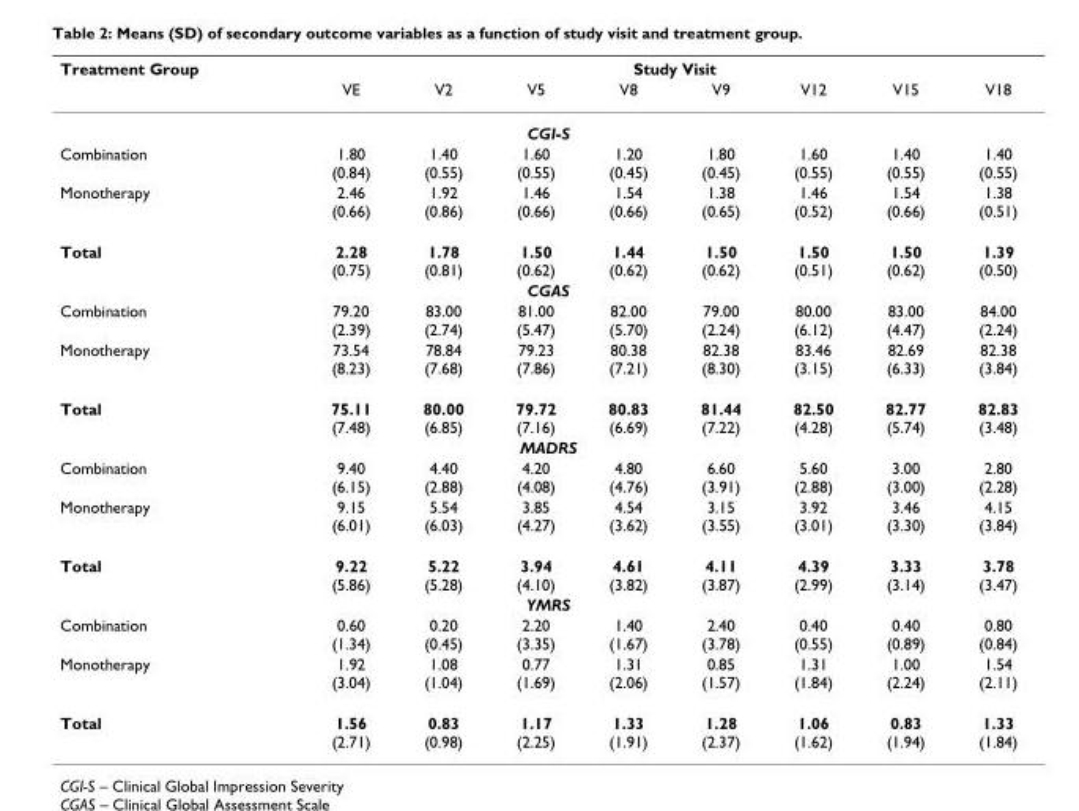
<table><thead><tr><td rowspan="2">Treatment Group</td><td colspan="8">Study Visit</td></tr><tr><td>VE</td><td>V2</td><td>V5</td><td>V8</td><td>V9</td><td>V12</td><td>V15</td><td>V18</td></tr></thead><tbody><tr><td colspan="9">CGI-S</td></tr><tr><td>Combination</td><td>1.80 (0.84)</td><td>1.40 (0.55)</td><td>1.60 (0.55)</td><td>1.20 (0.45)</td><td>1.80 (0.45)</td><td>1.60 (0.55)</td><td>1.40 (0.55)</td><td>1.40 (0.55)</td></tr><tr><td>Monotherapy</td><td>2.46 (0.66)</td><td>1.92 (0.86)</td><td>1.46 (0.66)</td><td>1.54 (0.66)</td><td>1.38 (0.65)</td><td>1.46 (0.52)</td><td>1.54 (0.66)</td><td>1.38 (0.51)</td></tr><tr><td>Total</td><td>2.28 (0.75)</td><td>1.78 (0.81)</td><td>1.50 (0.62)</td><td>1.44 (0.62)</td><td>1.50 (0.62)</td><td>1.50 (0.51)</td><td>1.50 (0.62)</td><td>1.39 (0.50)</td></tr><tr><td colspan="9">CGAS</td></tr><tr><td>Combination</td><td>79.20 (2.39)</td><td>83.00 (2.74)</td><td>81.00 (5.47)</td><td>82.00 (5.70)</td><td>79.00 (2.24)</td><td>80.00 (6.12)</td><td>83.00 (4.47)</td><td>84.00 (2.24)</td></tr><tr><td>Monotherapy</td><td>73.54 (8.23)</td><td>78.84 (7.68)</td><td>79.23 (7.86)</td><td>80.38 (7.21)</td><td>82.38 (8.30)</td><td>83.46 (3.15)</td><td>82.69 (6.33)</td><td>82.38 (3.84)</td></tr><tr><td>Total</td><td>75.11 (7.48)</td><td>80.00 (6.85)</td><td>79.72 (7.16)</td><td>80.83 (6.69)</td><td>81.44 (7.22)</td><td>82.50 (4.28)</td><td>82.77 (5.74)</td><td>82.83 (3.48)</td></tr><tr><td colspan="9">MADRS</td></tr><tr><td>Combination</td><td>9.40 (6.15)</td><td>4.40 (2.88)</td><td>4.20 (4.08)</td><td>4.80 (4.76)</td><td>6.60 (3.91)</td><td>5.60 (2.88)</td><td>3.00 (3.00)</td><td>2.80 (2.28)</td></tr><tr><td>Monotherapy</td><td>9.15 (6.01)</td><td>5.54 (6.03)</td><td>3.85 (4.27)</td><td>4.54 (3.62)</td><td>3.15 (3.55)</td><td>3.92 (3.01)</td><td>3.46 (3.30)</td><td>4.15 (3.84)</td></tr><tr><td>Total</td><td>9.22 (5.86)</td><td>5.22 (5.28)</td><td>3.94 (4.10)</td><td>4.61 (3.82)</td><td>4.11 (3.87)</td><td>4.39 (2.99)</td><td>3.33 (3.14)</td><td>3.78 (3.47)</td></tr><tr><td colspan="9">YMRS</td></tr><tr><td>Combination</td><td>0.60 (1.34)</td><td>0.20 (0.45)</td><td>2.20 (3.35)</td><td>1.40 (1.67)</td><td>2.40 (3.78)</td><td>0.40 (0.55)</td><td>0.40 (0.89)</td><td>0.80 (0.84)</td></tr><tr><td>Monotherapy</td><td>1.92 (3.04)</td><td>1.08 (1.04)</td><td>0.77 (1.69)</td><td>1.31 (2.06)</td><td>0.85 (1.57)</td><td>1.31 (1.84)</td><td>1.00 (2.24)</td><td>1.54 (2.11)</td></tr><tr><td>Total</td><td>1.56 (2.71)</td><td>0.83 (0.98)</td><td>1.17 (2.25)</td><td>1.33 (1.91)</td><td>1.28 (2.37)</td><td>1.06 (1.62)</td><td>0.83 (1.94)</td><td>1.33 (1.84)</td></tr></tbody></table>